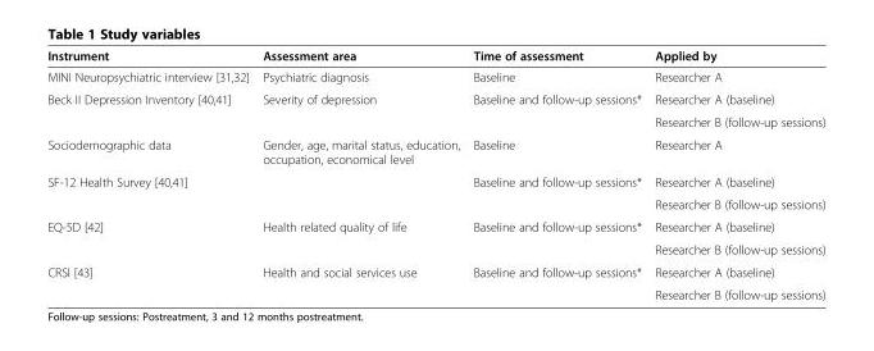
<table><thead><tr><td>Instrument</td><td>Assessment area</td><td>Time of assessment</td><td>Applied by</td></tr></thead><tbody><tr><td>MINI Neuropsychiatric interview [31,32]</td><td>Psychiatric diagnosis</td><td>Baseline</td><td>Researcher A</td></tr><tr><td rowspan="2">Beck II Depression Inventory [40,41]</td><td rowspan="2">Severity of depression</td><td rowspan="2">Baseline and follow-up sessions*</td><td>Researcher A (baseline)</td></tr><tr><td>Researcher B (follow-up sessions)</td></tr><tr><td>Sociodemographic data</td><td>Gender, age, marital status, education, occupation, economical level</td><td>Baseline</td><td>Researcher A</td></tr><tr><td rowspan="2">SF-12 Health Survey [40,41]</td><td rowspan="2"></td><td rowspan="2">Baseline and follow-up sessions*</td><td>Researcher A (baseline)</td></tr><tr><td>Researcher B (follow-up sessions)</td></tr><tr><td rowspan="2">EQ-5D [42]</td><td rowspan="2">Health related quality of life</td><td rowspan="2">Baseline and follow-up sessions*</td><td>Researcher A (baseline)</td></tr><tr><td>Researcher B (follow-up sessions)</td></tr><tr><td rowspan="2">CRSI [43]</td><td rowspan="2">Health and social services use</td><td rowspan="2">Baseline and follow-up sessions*</td><td>Researcher A (baseline)</td></tr><tr><td>Researcher B (follow-up sessions)</td></tr></tbody></table>